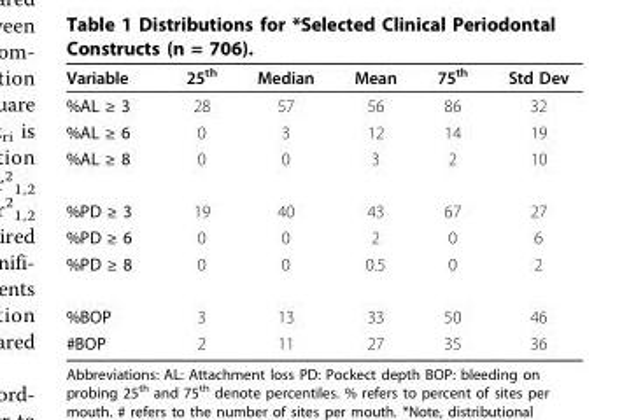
<table><thead><tr><td>Variable</td><td>25<sup>th</sup></td><td>Median</td><td>Mean</td><td>75<sup>th</sup></td><td>Std Dev</td></tr></thead><tbody><tr><td>%AL ≥ 3</td><td>28</td><td>57</td><td>56</td><td>86</td><td>32</td></tr><tr><td>%AL ≥ 6</td><td>0</td><td>3</td><td>12</td><td>14</td><td>19</td></tr><tr><td>%AL ≥ 8</td><td>0</td><td>0</td><td>3</td><td>2</td><td>10</td></tr><tr><td>%PD ≥ 3</td><td>19</td><td>40</td><td>43</td><td>67</td><td>27</td></tr><tr><td>%PD ≥ 6</td><td>0</td><td>0</td><td>2</td><td>0</td><td>6</td></tr><tr><td>%PD ≥ 8</td><td>0</td><td>0</td><td>0.5</td><td>0</td><td>2</td></tr><tr><td>%BOP</td><td>3</td><td>13</td><td>33</td><td>50</td><td>46</td></tr><tr><td>#BOP</td><td>2</td><td>11</td><td>27</td><td>35</td><td>36</td></tr></tbody></table>